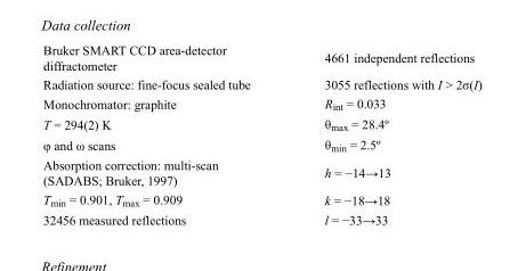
<table><tbody><tr><td>Bruker SMART CCD area-detector diffractometer</td><td>4661 independent reflections</td></tr><tr><td>Radiation source: fine-focus sealed tube</td><td>3055 reflections with I &gt; 2σ(I)</td></tr><tr><td>Monochromator: graphite</td><td>R<sub>int</sub> = 0.033</td></tr><tr><td>T = 294(2) K</td><td>θ<sub>max</sub> = 28.4º</td></tr><tr><td>φ and ω scans</td><td>θ<sub>min</sub> = 2.5º</td></tr><tr><td>Absorption correction: multi-scan (SADABS; Bruker, 1997)</td><td>h = −14→13</td></tr><tr><td>T<sub>min</sub> = 0.901, T<sub>max</sub> = 0.909</td><td>k = −18→18</td></tr><tr><td>32456 measured reflections</td><td>l = −33→33</td></tr></tbody></table>